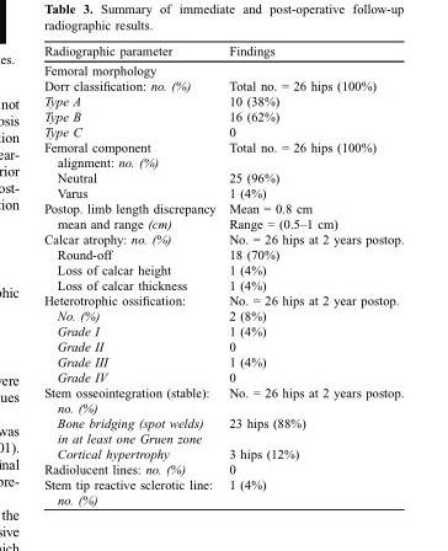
<table><thead><tr><td>Radiographic parameter</td><td>Findings</td></tr></thead><tbody><tr><td colspan="2">Femoral morphology</td></tr><tr><td>Dorr classification: no. (%)</td><td>Total no. = 26 hips (100%)</td></tr><tr><td>Type A</td><td>10 (38%)</td></tr><tr><td>Type B</td><td>16 (62%)</td></tr><tr><td>Type C</td><td>0</td></tr><tr><td>Femoral component alignment: no. (%)</td><td>Total no. = 26 hips (100%)</td></tr><tr><td>Neutral</td><td>25 (96%)</td></tr><tr><td>Varus</td><td>1 (4%)</td></tr><tr><td rowspan="2">Postop. limb length discrepancy mean and range (cm)</td><td>Mean = 0.8 cm</td></tr><tr><td>Range = (0.5–1 cm)</td></tr><tr><td>Calcar atrophy: no. (%)</td><td>No. = 26 hips at 2 years postop.</td></tr><tr><td>Round-off</td><td>18 (70%)</td></tr><tr><td>Loss of calcar height</td><td>1 (4%)</td></tr><tr><td>Loss of calcar thickness</td><td>1 (4%)</td></tr><tr><td>Heterotrophic ossification:</td><td>No. = 26 hips at 2 year postop.</td></tr><tr><td>No. (%)</td><td>2 (8%)</td></tr><tr><td>Grade I</td><td>1 (4%)</td></tr><tr><td>Grade II</td><td>0</td></tr><tr><td>Grade III</td><td>1 (4%)</td></tr><tr><td>Grade IV</td><td>0</td></tr><tr><td>Stem osseointegration (stable): no. (%)</td><td>No. = 26 hips at 2 years postop.</td></tr><tr><td>Bone bridging (spot welds) in at least one Gruen zone</td><td>23 hips (88%)</td></tr><tr><td>Cortical hypertrophy</td><td>3 hips (12%)</td></tr><tr><td>Radiolucent lines: no. (%)</td><td>0</td></tr><tr><td>Stem tip reactive sclerotic line: no. (%)</td><td>1 (4%)</td></tr></tbody></table>